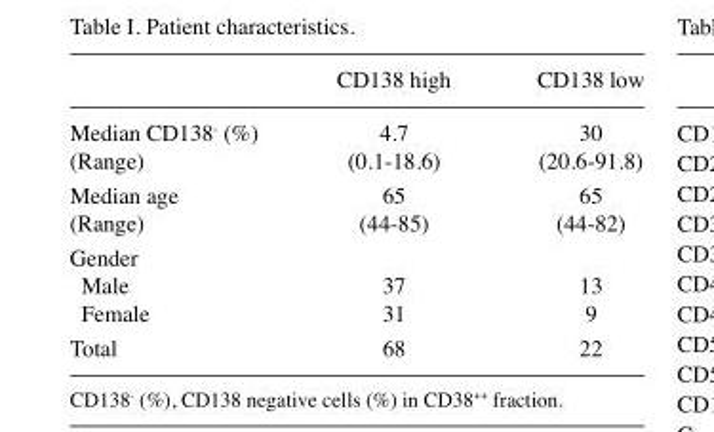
<table><thead><tr><td></td><td>CD138 high</td><td>CD138 low</td></tr></thead><tbody><tr><td>Median CD138<sup>-</sup> (%) (Range)</td><td>4.7 (0.1-18.6)</td><td>30 (20.6-91.8)</td></tr><tr><td>Median age (Range)</td><td>65 (44-85)</td><td>65 (44-82)</td></tr><tr><td colspan="3">Gender</td></tr><tr><td>Male</td><td>37</td><td>13</td></tr><tr><td>Female</td><td>31</td><td>9</td></tr><tr><td>Total</td><td>68</td><td>22</td></tr></tbody></table>